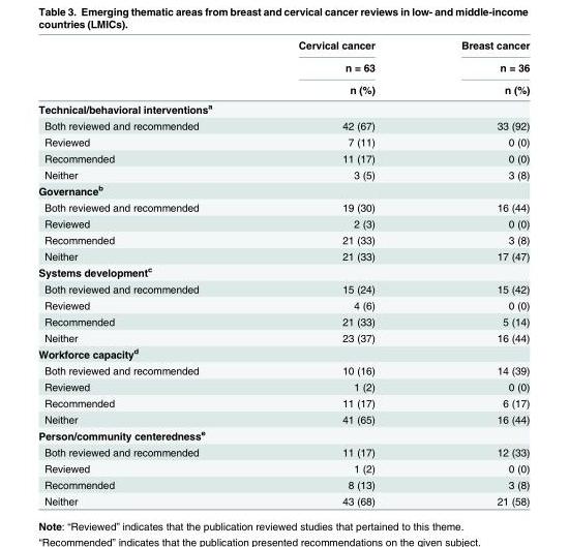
<table><thead><tr><td rowspan="3"></td><td rowspan="3">Cervical cancer n = 63 n (%)</td><td rowspan="3">Breast cancer n = 36 n (%)</td></tr><tr></tr><tr></tr></thead><tbody><tr><td colspan="3">Technical/behavioral interventions<sup>a</sup></td></tr><tr><td>Both reviewed and recommended</td><td>42 (67)</td><td>33 (92)</td></tr><tr><td>Reviewed</td><td>7 (11)</td><td>0 (0)</td></tr><tr><td>Recommended</td><td>11 (17)</td><td>0 (0)</td></tr><tr><td>Neither</td><td>3 (5)</td><td>3 (8)</td></tr><tr><td colspan="3">Governance<sup>b</sup></td></tr><tr><td>Both reviewed and recommended</td><td>19 (30)</td><td>16 (44)</td></tr><tr><td>Reviewed</td><td>2 (3)</td><td>0 (0)</td></tr><tr><td>Recommended</td><td>21 (33)</td><td>3 (8)</td></tr><tr><td>Neither</td><td>21 (33)</td><td>17 (47)</td></tr><tr><td colspan="3">Systems development<sup>c</sup></td></tr><tr><td>Both reviewed and recommended</td><td>15 (24)</td><td>15 (42)</td></tr><tr><td>Reviewed</td><td>4 (6)</td><td>0 (0)</td></tr><tr><td>Recommended</td><td>21 (33)</td><td>5 (14)</td></tr><tr><td>Neither</td><td>23 (37)</td><td>16 (44)</td></tr><tr><td colspan="3">Workforce capacity<sup>d</sup></td></tr><tr><td>Both reviewed and recommended</td><td>10 (16)</td><td>14 (39)</td></tr><tr><td>Reviewed</td><td>1 (2)</td><td>0 (0)</td></tr><tr><td>Recommended</td><td>11 (17)</td><td>6 (17)</td></tr><tr><td>Neither</td><td>41 (65)</td><td>16 (44)</td></tr><tr><td colspan="3">Person/community centeredness<sup>e</sup></td></tr><tr><td>Both reviewed and recommended</td><td>11 (17)</td><td>12 (33)</td></tr><tr><td>Reviewed</td><td>1 (2)</td><td>0 (0)</td></tr><tr><td>Recommended</td><td>8 (13)</td><td>3 (8)</td></tr><tr><td>Neither</td><td>43 (68)</td><td>21 (58)</td></tr></tbody></table>